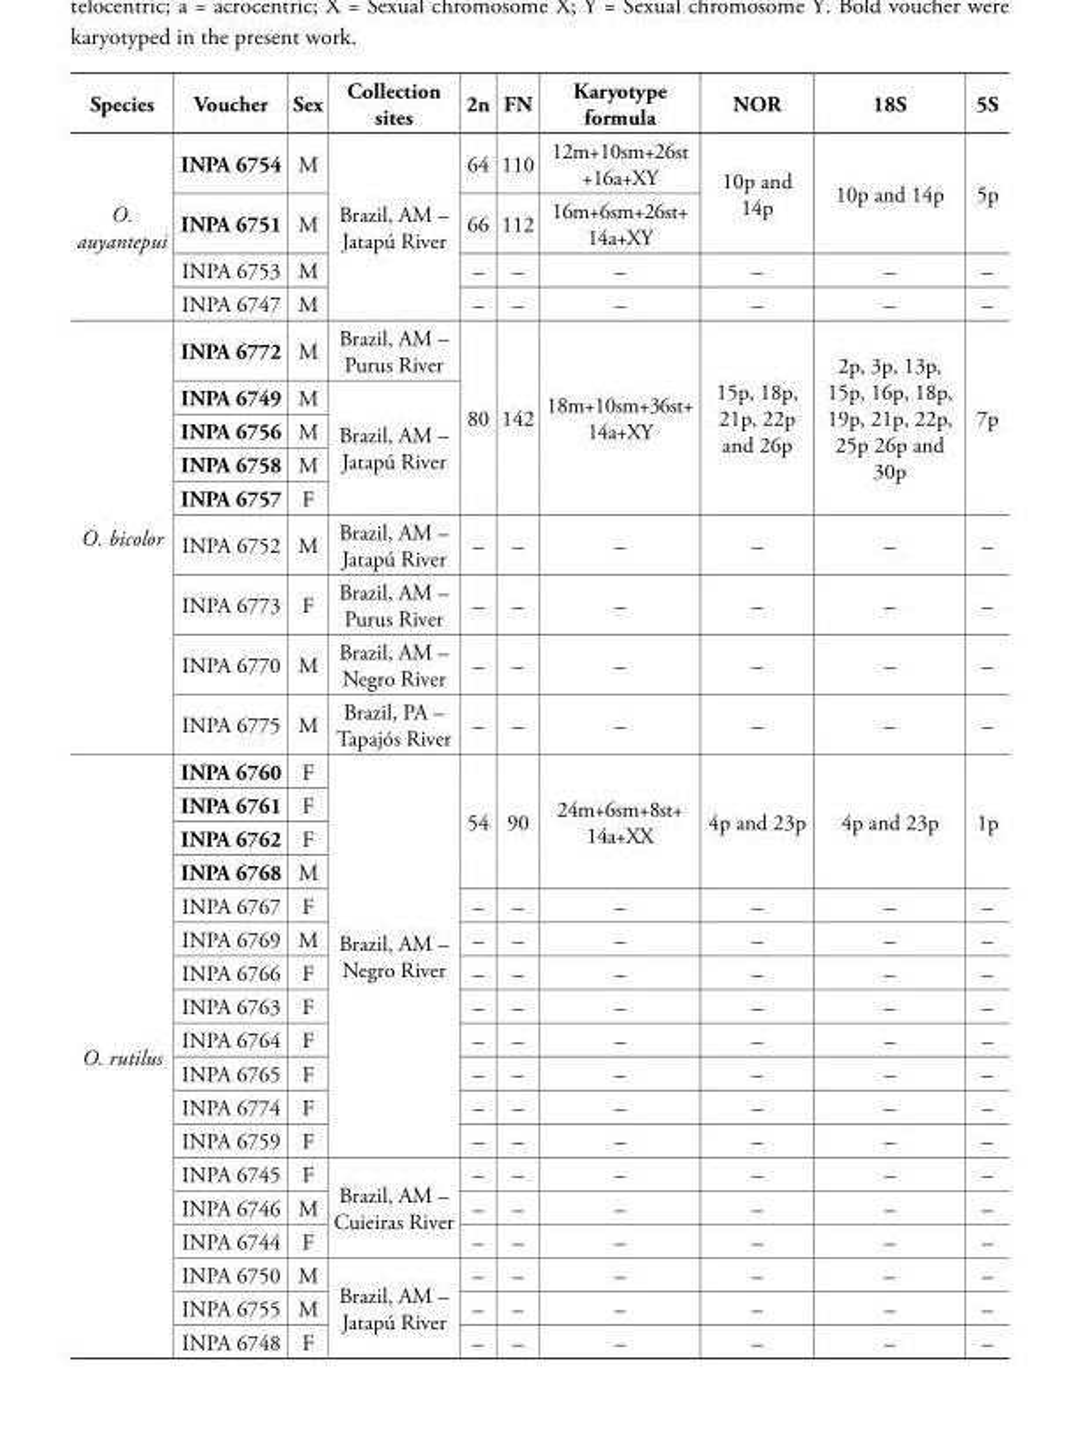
<table><thead><tr><td>Species</td><td>Voucher</td><td>Sex</td><td>Collection sites</td><td>2n</td><td>FN</td><td>Karyotype formula</td><td>NOR</td><td>18S</td><td>5S</td></tr></thead><tbody><tr><td rowspan="4">O. auyantepui</td><td>INPA 6754</td><td>M</td><td rowspan="4">Brazil, AM – Jatapú River</td><td>64</td><td>110</td><td>12m+10sm+26st +16a+XY</td><td rowspan="2">10p and 14p</td><td rowspan="2">10p and 14p</td><td rowspan="2">5p</td></tr><tr><td>INPA 6751</td><td>M</td><td>66</td><td>112</td><td>16m+6sm+26st+ 14a+XY</td></tr><tr><td>INPA 6753</td><td>M</td><td>–</td><td>–</td><td>–</td><td>–</td><td>–</td><td>–</td></tr><tr><td>INPA 6747</td><td>M</td><td>–</td><td>–</td><td>–</td><td>–</td><td>–</td><td>–</td></tr><tr><td rowspan="9">O. bicolor</td><td>INPA 6772</td><td>M</td><td>Brazil, AM – Purus River</td><td rowspan="5">80</td><td rowspan="5">142</td><td rowspan="5">18m+10sm+36st+ 14a+XY</td><td rowspan="5">15p, 18p, 21p, 22p and 26p</td><td rowspan="5">2p, 3p, 13p, 15p, 16p, 18p, 19p, 21p, 22p, 25p 26p and 30p</td><td rowspan="5">7p</td></tr><tr><td>INPA 6749</td><td>M</td><td rowspan="4">Brazil, AM – Jatapú River</td></tr><tr><td>INPA 6756</td><td>M</td></tr><tr><td>INPA 6758</td><td>M</td></tr><tr><td>INPA 6757</td><td>F</td></tr><tr><td>INPA 6752</td><td>M</td><td>Brazil, AM – Jatapú River</td><td>–</td><td>–</td><td>–</td><td>–</td><td>–</td><td>–</td></tr><tr><td>INPA 6773</td><td>F</td><td>Brazil, AM – Purus River</td><td>–</td><td>–</td><td>–</td><td>–</td><td>–</td><td>–</td></tr><tr><td>INPA 6770</td><td>M</td><td>Brazil, AM – Negro River</td><td>–</td><td>–</td><td>–</td><td>–</td><td>–</td><td>–</td></tr><tr><td>INPA 6775</td><td>M</td><td>Brazil, PA – Tapajós River</td><td>–</td><td>–</td><td>–</td><td>–</td><td>–</td><td>–</td></tr><tr><td rowspan="18">O. rutilus</td><td>INPA 6760</td><td>F</td><td rowspan="12">Brazil, AM – Negro River</td><td rowspan="4">54</td><td rowspan="4">90</td><td rowspan="4">24m+6sm+8st+ 14a+XX</td><td rowspan="4">4p and 23p</td><td rowspan="4">4p and 23p</td><td rowspan="4">1p</td></tr><tr><td>INPA 6761</td><td>F</td></tr><tr><td>INPA 6762</td><td>F</td></tr><tr><td>INPA 6768</td><td>M</td></tr><tr><td>INPA 6767</td><td>F</td><td>–</td><td>–</td><td>–</td><td>–</td><td>–</td><td>–</td></tr><tr><td>INPA 6769</td><td>M</td><td>–</td><td>–</td><td>–</td><td>–</td><td>–</td><td>–</td></tr><tr><td>INPA 6766</td><td>F</td><td>–</td><td>–</td><td>–</td><td>–</td><td>–</td><td>–</td></tr><tr><td>INPA 6763</td><td>F</td><td>–</td><td>–</td><td>–</td><td>–</td><td>–</td><td>–</td></tr><tr><td>INPA 6764</td><td>F</td><td>–</td><td>–</td><td>–</td><td>–</td><td>–</td><td>–</td></tr><tr><td>INPA 6765</td><td>F</td><td>–</td><td>–</td><td>–</td><td>–</td><td>–</td><td>–</td></tr><tr><td>INPA 6774</td><td>F</td><td>–</td><td>–</td><td>–</td><td>–</td><td>–</td><td>–</td></tr><tr><td>INPA 6759</td><td>F</td><td>–</td><td>–</td><td>–</td><td>–</td><td>–</td><td>–</td></tr><tr><td>INPA 6745</td><td>F</td><td rowspan="3">Brazil, AM – Cuieiras River</td><td>–</td><td>–</td><td>–</td><td>–</td><td>–</td><td>–</td></tr><tr><td>INPA 6746</td><td>M</td><td>–</td><td>–</td><td>–</td><td>–</td><td>–</td><td>–</td></tr><tr><td>INPA 6744</td><td>F</td><td>–</td><td>–</td><td>–</td><td>–</td><td>–</td><td>–</td></tr><tr><td>INPA 6750</td><td>M</td><td rowspan="3">Brazil, AM – Jatapú River</td><td>–</td><td>–</td><td>–</td><td>–</td><td>–</td><td>–</td></tr><tr><td>INPA 6755</td><td>M</td><td>–</td><td>–</td><td>–</td><td>–</td><td>–</td><td>–</td></tr><tr><td>INPA 6748</td><td>F</td><td>–</td><td>–</td><td>–</td><td>–</td><td>–</td><td>–</td></tr></tbody></table>